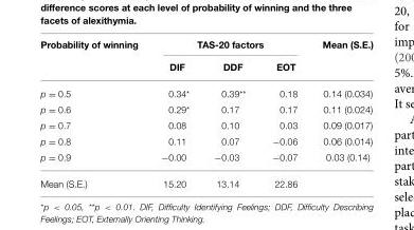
<table><thead><tr><td rowspan="2">Probability of winning</td><td colspan="3">TAS-20 factors</td><td rowspan="2">Mean (S.E.)</td></tr><tr><td>DIF</td><td>DDF</td><td>EOT</td></tr></thead><tbody><tr><td>p = 0.5</td><td>0.34*</td><td>0.39**</td><td>0.18</td><td>0.14 (0.034)</td></tr><tr><td>p = 0.6</td><td>0.29*</td><td>0.17</td><td>0.17</td><td>0.11 (0.024)</td></tr><tr><td>p = 0.7</td><td>0.08</td><td>0.10</td><td>0.03</td><td>0.09 (0.017)</td></tr><tr><td>p = 0.8</td><td>0.11</td><td>0.07</td><td>−0.06</td><td>0.06 (0.014)</td></tr><tr><td>p = 0.9</td><td>−0.00</td><td>−0.03</td><td>−0.07</td><td>0.03 (0.14)</td></tr><tr><td>Mean (S.E.)</td><td>15.20</td><td>13.14</td><td>22.86</td><td></td></tr></tbody></table>